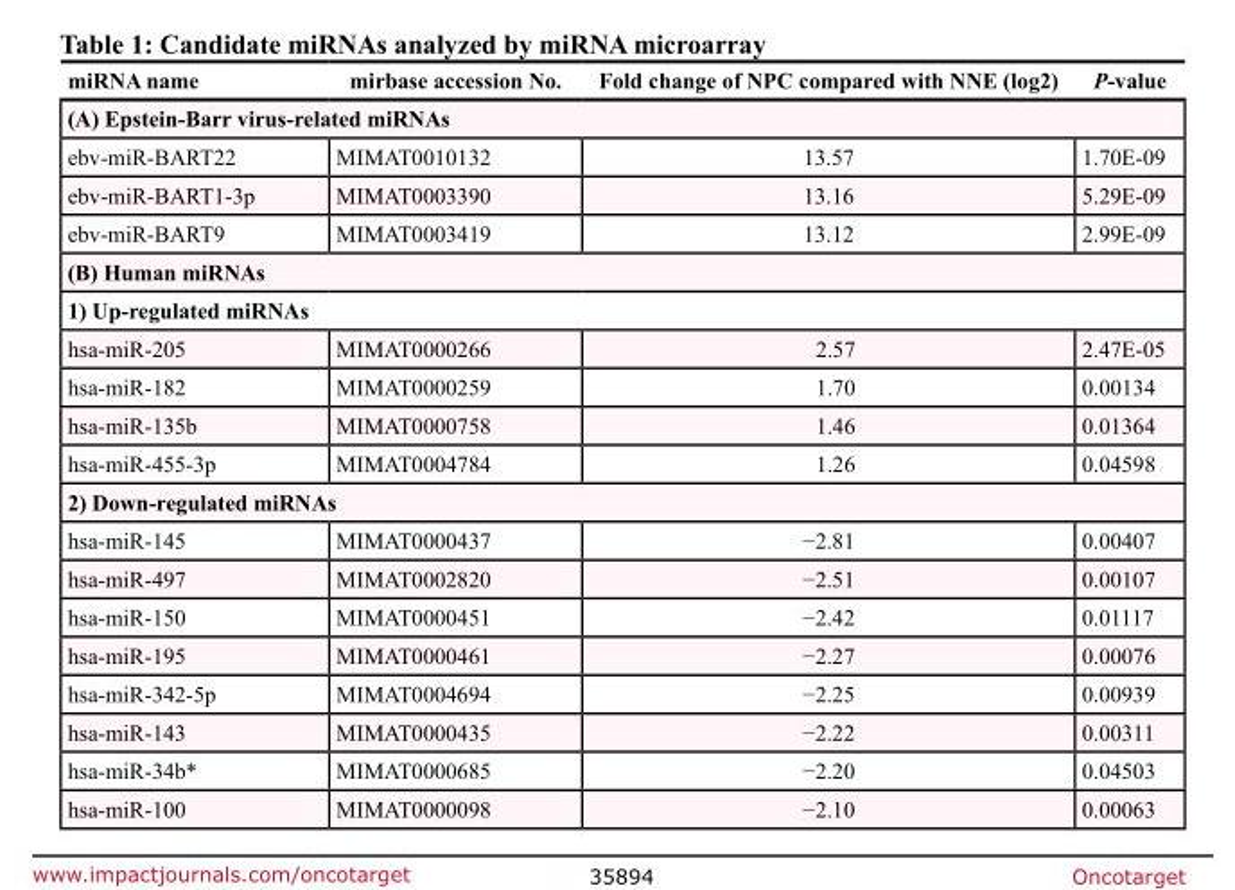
<table><thead><tr><td>miRNA name</td><td>mirbase accession No.</td><td>Fold change of NPC compared with NNE (log2)</td><td>P-value</td></tr></thead><tbody><tr><td colspan="4">(A) Epstein-Barr virus-related miRNAs</td></tr><tr><td>ebv-miR-BART22</td><td>MIMAT0010132</td><td>13.57</td><td>1.70E-09</td></tr><tr><td>ebv-miR-BART1-3p</td><td>MIMAT0003390</td><td>13.16</td><td>5.29E-09</td></tr><tr><td>ebv-miR-BART9</td><td>MIMAT0003419</td><td>13.12</td><td>2.99E-09</td></tr><tr><td colspan="4">(B) Human miRNAs</td></tr><tr><td colspan="4">1) Up-regulated miRNAs</td></tr><tr><td>hsa-miR-205</td><td>MIMAT0000266</td><td>2.57</td><td>2.47E-05</td></tr><tr><td>hsa-miR-182</td><td>MIMAT0000259</td><td>1.70</td><td>0.00134</td></tr><tr><td>hsa-miR-135b</td><td>MIMAT0000758</td><td>1.46</td><td>0.01364</td></tr><tr><td>hsa-miR-455-3p</td><td>MIMAT0004784</td><td>1.26</td><td>0.04598</td></tr><tr><td colspan="4">2) Down-regulated miRNAs</td></tr><tr><td>hsa-miR-145</td><td>MIMAT0000437</td><td>−2.81</td><td>0.00407</td></tr><tr><td>hsa-miR-497</td><td>MIMAT0002820</td><td>−2.51</td><td>0.00107</td></tr><tr><td>hsa-miR-150</td><td>MIMAT0000451</td><td>−2.42</td><td>0.01117</td></tr><tr><td>hsa-miR-195</td><td>MIMAT0000461</td><td>−2.27</td><td>0.00076</td></tr><tr><td>hsa-miR-342-5p</td><td>MIMAT0004694</td><td>−2.25</td><td>0.00939</td></tr><tr><td>hsa-miR-143</td><td>MIMAT0000435</td><td>−2.22</td><td>0.00311</td></tr><tr><td>hsa-miR-34b*</td><td>MIMAT0000685</td><td>−2.20</td><td>0.04503</td></tr><tr><td>hsa-miR-100</td><td>MIMAT0000098</td><td>−2.10</td><td>0.00063</td></tr></tbody></table>